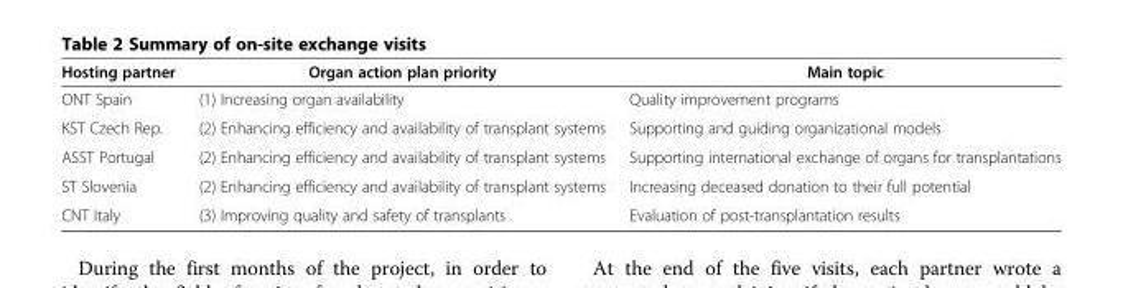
<table><thead><tr><td>Hosting partner</td><td>Organ action plan priority</td><td>Main topic</td></tr></thead><tbody><tr><td>ONT Spain</td><td>(1) Increasing organ availability</td><td>Quality improvement programs</td></tr><tr><td>KST Czech Rep.</td><td>(2) Enhancing efficiency and availability of transplant systems</td><td>Supporting and guiding organizational models</td></tr><tr><td>ASST Portugal</td><td>(2) Enhancing efficiency and availability of transplant systems</td><td>Supporting international exchange of organs for transplantations</td></tr><tr><td>ST Slovenia</td><td>(2) Enhancing efficiency and availability of transplant systems</td><td>Increasing deceased donation to their full potential</td></tr><tr><td>CNT Italy</td><td>(3) Improving quality and safety of transplants</td><td>Evaluation of post-transplantation results</td></tr></tbody></table>